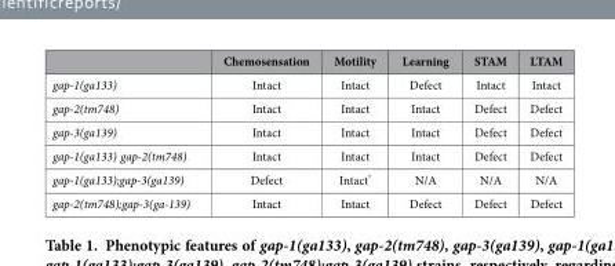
<table><thead><tr><td></td><td>Chemosensation</td><td>Motility</td><td>Learning</td><td>STAM</td><td>LTAM</td></tr></thead><tbody><tr><td>gap-1(ga133)</td><td>Intact</td><td>Intact</td><td>Defect</td><td>Intact</td><td>Intact</td></tr><tr><td>gap-2(tm748)</td><td>Intact</td><td>Intact</td><td>Intact</td><td>Defect</td><td>Defect</td></tr><tr><td>gap-3(ga139)</td><td>Intact</td><td>Intact</td><td>Intact</td><td>Defect</td><td>Defect</td></tr><tr><td>gap-1(ga133) gap-2(tm748)</td><td>Intact</td><td>Intact</td><td>Intact</td><td>Defect</td><td>Defect</td></tr><tr><td>gap-1(ga133);gap-3(ga139)</td><td>Defect</td><td>Intact*</td><td>N/A</td><td>N/A</td><td>N/A</td></tr><tr><td>gap-2(tm748);gap-3(ga-139)</td><td>Intact</td><td>Intact</td><td>Defect</td><td>Defect</td><td>Defect</td></tr></tbody></table>